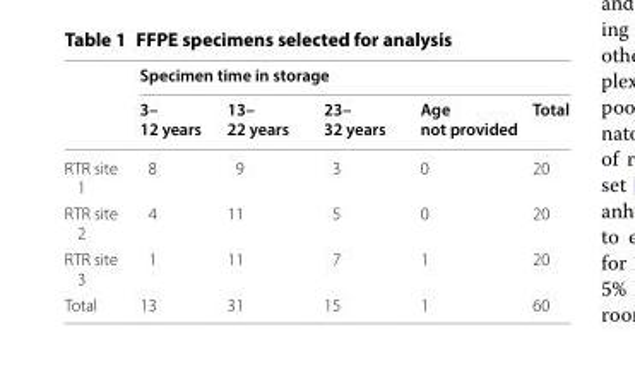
<table><thead><tr><td rowspan="2"></td><td colspan="5">Specimen time in storage</td></tr><tr><td>3– 12 years</td><td>13– 22 years</td><td>23– 32 years</td><td>Age not provided</td><td>Total</td></tr></thead><tbody><tr><td>RTR site 1</td><td>8</td><td>9</td><td>3</td><td>0</td><td>20</td></tr><tr><td>RTR site 2</td><td>4</td><td>11</td><td>5</td><td>0</td><td>20</td></tr><tr><td>RTR site 3</td><td>1</td><td>11</td><td>7</td><td>1</td><td>20</td></tr><tr><td>Total</td><td>13</td><td>31</td><td>15</td><td>1</td><td>60</td></tr></tbody></table>